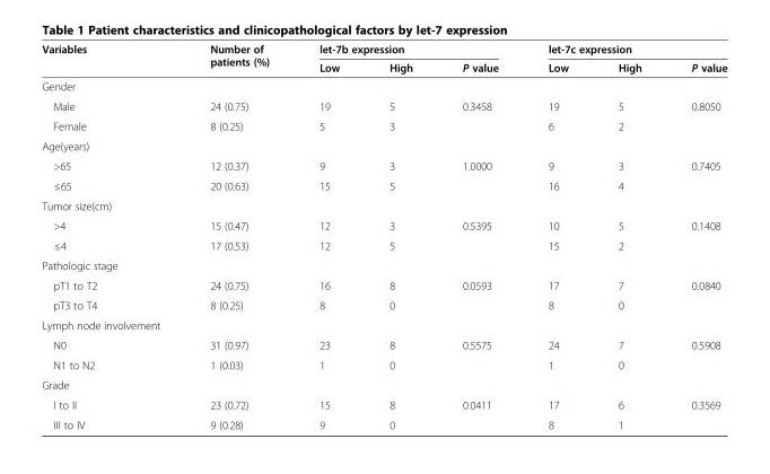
<table><thead><tr><td rowspan="2">Variables</td><td rowspan="2">Number of patients (%)</td><td colspan="3">let-7b expression</td><td colspan="3">let-7c expression</td></tr><tr><td>Low</td><td>High</td><td>P value</td><td>Low</td><td>High</td><td>P value</td></tr></thead><tbody><tr><td colspan="8">Gender</td></tr><tr><td>Male</td><td>24 (0.75)</td><td>19</td><td>5</td><td rowspan="2">0.3458</td><td>19</td><td>5</td><td rowspan="2">0.8050</td></tr><tr><td>Female</td><td>8 (0.25)</td><td>5</td><td>3</td><td>6</td><td>2</td></tr><tr><td colspan="8">Age(years)</td></tr><tr><td>&gt;65</td><td>12 (0.37)</td><td>9</td><td>3</td><td>1.0000</td><td>9</td><td>3</td><td>0.7405</td></tr><tr><td>≤65</td><td>20 (0.63)</td><td>15</td><td>5</td><td></td><td>16</td><td>4</td><td></td></tr><tr><td colspan="8">Tumor size(cm)</td></tr><tr><td>&gt;4</td><td>15 (0.47)</td><td>12</td><td>3</td><td rowspan="2">0.5395</td><td>10</td><td>5</td><td rowspan="2">0.1408</td></tr><tr><td>≤4</td><td>17 (0.53)</td><td>12</td><td>5</td><td>15</td><td>2</td></tr><tr><td colspan="8">Pathologic stage</td></tr><tr><td>pT1 to T2</td><td>24 (0.75)</td><td>16</td><td>8</td><td rowspan="2">0.0593</td><td>17</td><td>7</td><td rowspan="2">0.0840</td></tr><tr><td>pT3 to T4</td><td>8 (0.25)</td><td>8</td><td>0</td><td>8</td><td>0</td></tr><tr><td colspan="8">Lymph node involvement</td></tr><tr><td>N0</td><td>31 (0.97)</td><td>23</td><td>8</td><td>0.5575</td><td>24</td><td>7</td><td>0.5908</td></tr><tr><td>N1 to N2</td><td>1 (0.03)</td><td>1</td><td>0</td><td></td><td>1</td><td>0</td><td></td></tr><tr><td colspan="8">Grade</td></tr><tr><td>I to II</td><td>23 (0.72)</td><td>15</td><td>8</td><td>0.0411</td><td>17</td><td>6</td><td>0.3569</td></tr><tr><td>III to IV</td><td>9 (0.28)</td><td>9</td><td>0</td><td></td><td>8</td><td>1</td><td></td></tr></tbody></table>